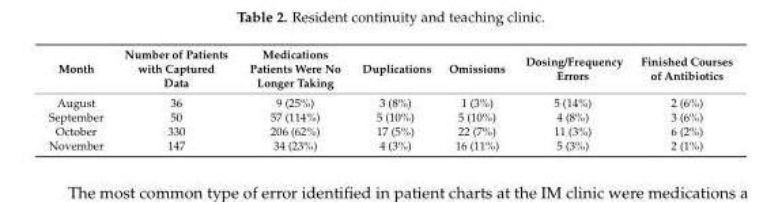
<table><thead><tr><td>Month</td><td>Number of Patients with Captured Data</td><td>Medications Patients Were No Longer Taking</td><td>Duplications</td><td>Omissions</td><td>Dosing/Frequency Errors</td><td>Finished Courses of Antibiotics</td></tr></thead><tbody><tr><td>August</td><td>36</td><td>9 (25%)</td><td>3 (8%)</td><td>1 (3%)</td><td>5 (14%)</td><td>2 (6%)</td></tr><tr><td>September</td><td>50</td><td>57 (114%)</td><td>5 (10%)</td><td>5 (10%)</td><td>4 (8%)</td><td>3 (6%)</td></tr><tr><td>October</td><td>330</td><td>206 (62%)</td><td>17 (5%)</td><td>22 (7%)</td><td>11 (3%)</td><td>6 (2%)</td></tr><tr><td>November</td><td>147</td><td>34 (23%)</td><td>4 (3%)</td><td>16 (11%)</td><td>5 (3%)</td><td>2 (1%)</td></tr></tbody></table>